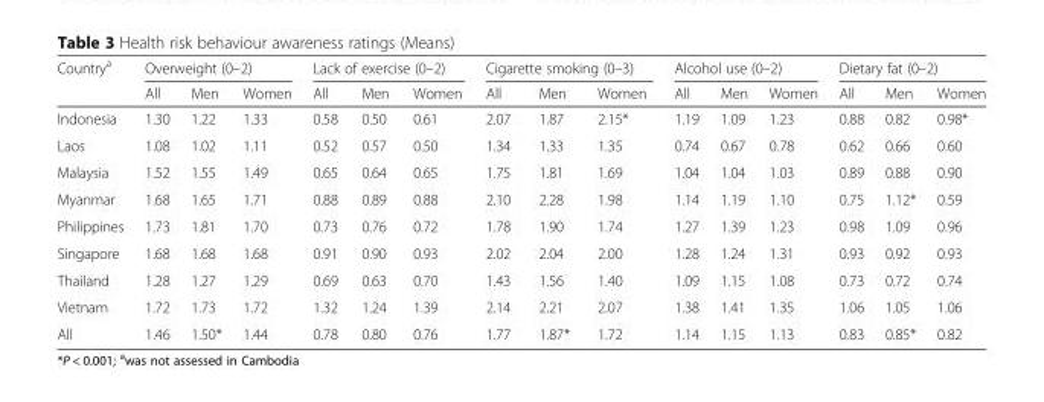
<table><thead><tr><td rowspan="2">Country<sup>a</sup></td><td colspan="3">Overweight (0–2)</td><td colspan="3">Lack of exercise (0–2)</td><td colspan="3">Cigarette smoking (0–3)</td><td colspan="3">Alcohol use (0–2)</td><td colspan="3">Dietary fat (0–2)</td></tr><tr><td>All</td><td>Men</td><td>Women</td><td>All</td><td>Men</td><td>Women</td><td>All</td><td>Men</td><td>Women</td><td>All</td><td>Men</td><td>Women</td><td>All</td><td>Men</td><td>Women</td></tr></thead><tbody><tr><td>Indonesia</td><td>1.30</td><td>1.22</td><td>1.33</td><td>0.58</td><td>0.50</td><td>0.61</td><td>2.07</td><td>1.87</td><td>2.15*</td><td>1.19</td><td>1.09</td><td>1.23</td><td>0.88</td><td>0.82</td><td>0.98*</td></tr><tr><td>Laos</td><td>1.08</td><td>1.02</td><td>1.11</td><td>0.52</td><td>0.57</td><td>0.50</td><td>1.34</td><td>1.33</td><td>1.35</td><td>0.74</td><td>0.67</td><td>0.78</td><td>0.62</td><td>0.66</td><td>0.60</td></tr><tr><td>Malaysia</td><td>1.52</td><td>1.55</td><td>1.49</td><td>0.65</td><td>0.64</td><td>0.65</td><td>1.75</td><td>1.81</td><td>1.69</td><td>1.04</td><td>1.04</td><td>1.03</td><td>0.89</td><td>0.88</td><td>0.90</td></tr><tr><td>Myanmar</td><td>1.68</td><td>1.65</td><td>1.71</td><td>0.88</td><td>0.89</td><td>0.88</td><td>2.10</td><td>2.28</td><td>1.98</td><td>1.14</td><td>1.19</td><td>1.10</td><td>0.75</td><td>1.12*</td><td>0.59</td></tr><tr><td>Philippines</td><td>1.73</td><td>1.81</td><td>1.70</td><td>0.73</td><td>0.76</td><td>0.72</td><td>1.78</td><td>1.90</td><td>1.74</td><td>1.27</td><td>1.39</td><td>1.23</td><td>0.98</td><td>1.09</td><td>0.96</td></tr><tr><td>Singapore</td><td>1.68</td><td>1.68</td><td>1.68</td><td>0.91</td><td>0.90</td><td>0.93</td><td>2.02</td><td>2.04</td><td>2.00</td><td>1.28</td><td>1.24</td><td>1.31</td><td>0.93</td><td>0.92</td><td>0.93</td></tr><tr><td>Thailand</td><td>1.28</td><td>1.27</td><td>1.29</td><td>0.69</td><td>0.63</td><td>0.70</td><td>1.43</td><td>1.56</td><td>1.40</td><td>1.09</td><td>1.15</td><td>1.08</td><td>0.73</td><td>0.72</td><td>0.74</td></tr><tr><td>Vietnam</td><td>1.72</td><td>1.73</td><td>1.72</td><td>1.32</td><td>1.24</td><td>1.39</td><td>2.14</td><td>2.21</td><td>2.07</td><td>1.38</td><td>1.41</td><td>1.35</td><td>1.06</td><td>1.05</td><td>1.06</td></tr><tr><td>All</td><td>1.46</td><td>1.50*</td><td>1.44</td><td>0.78</td><td>0.80</td><td>0.76</td><td>1.77</td><td>1.87*</td><td>1.72</td><td>1.14</td><td>1.15</td><td>1.13</td><td>0.83</td><td>0.85*</td><td>0.82</td></tr></tbody></table>